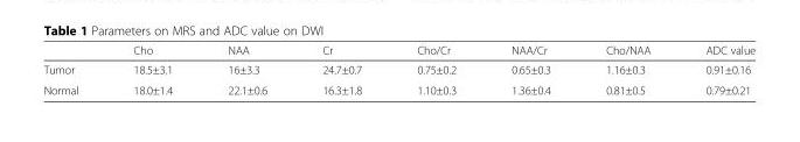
<table><thead><tr><td></td><td>Cho</td><td>NAA</td><td>Cr</td><td>Cho/Cr</td><td>NAA/Cr</td><td>Cho/NAA</td><td>ADC value</td></tr></thead><tbody><tr><td>Tumor</td><td>18.5±3.1</td><td>16±3.3</td><td>24.7±0.7</td><td>0.75±0.2</td><td>0.65±0.3</td><td>1.16±0.3</td><td>0.91±0.16</td></tr><tr><td>Normal</td><td>18.0±1.4</td><td>22.1±0.6</td><td>16.3±1.8</td><td>1.10±0.3</td><td>1.36±0.4</td><td>0.81±0.5</td><td>0.79±0.21</td></tr></tbody></table>